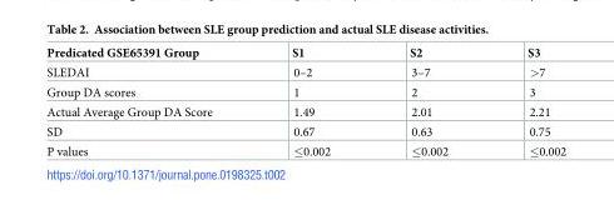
<table><thead><tr><td>Predicated GSE65391 Group</td><td>S1</td><td>S2</td><td>S3</td></tr></thead><tbody><tr><td>SLEDAI</td><td>0–2</td><td>3–7</td><td>&gt;7</td></tr><tr><td>Group DA scores</td><td>1</td><td>2</td><td>3</td></tr><tr><td>Actual Average Group DA Score</td><td>1.49</td><td>2.01</td><td>2.21</td></tr><tr><td>SD</td><td>0.67</td><td>0.63</td><td>0.75</td></tr><tr><td>P values</td><td>≤0.002</td><td>≤0.002</td><td>≤0.002</td></tr></tbody></table>